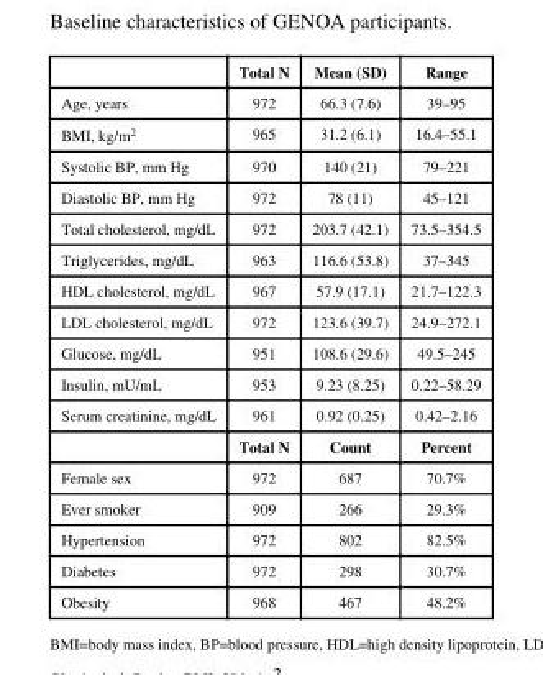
<table><thead><tr><td></td><td>Total N</td><td>Mean (SD)</td><td>Range</td></tr></thead><tbody><tr><td>Age, years</td><td>972</td><td>66.3 (7.6)</td><td>39–95</td></tr><tr><td>BMI, kg/m<sup>2</sup></td><td>965</td><td>31.2 (6.1)</td><td>16.4–55.1</td></tr><tr><td>Systolic BP, mm Hg</td><td>970</td><td>140 (21)</td><td>79–221</td></tr><tr><td>Diastolic BP, mm Hg</td><td>972</td><td>78 (11)</td><td>45–121</td></tr><tr><td>Total cholesterol, mg/dL</td><td>972</td><td>203.7 (42.1)</td><td>73.5–354.5</td></tr><tr><td>Triglycerides, mg/dL</td><td>963</td><td>116.6 (53.8)</td><td>37–345</td></tr><tr><td>HDL cholesterol, mg/dL</td><td>967</td><td>57.9 (17.1)</td><td>21.7–122.3</td></tr><tr><td>LDL cholesterol, mg/dL</td><td>972</td><td>123.6 (39.7)</td><td>24.9–272.1</td></tr><tr><td>Glucose, mg/dL</td><td>951</td><td>108.6 (29.6)</td><td>49.5–245</td></tr><tr><td>Insulin, mU/mL</td><td>953</td><td>9.23 (8.25)</td><td>0.22–58.29</td></tr><tr><td rowspan="2">Serum creatinine, mg/dL</td><td>961</td><td>0.92 (0.25)</td><td>0.42–2.16</td></tr><tr><td>Total N</td><td>Count</td><td>Percent</td></tr><tr><td>Female sex</td><td>972</td><td>687</td><td>70.7%</td></tr><tr><td>Ever smoker</td><td>909</td><td>266</td><td>29.3%</td></tr><tr><td>Hypertension</td><td>972</td><td>802</td><td>82.5%</td></tr><tr><td>Diabetes</td><td>972</td><td>298</td><td>30.7%</td></tr><tr><td>Obesity</td><td>968</td><td>467</td><td>48.2%</td></tr></tbody></table>